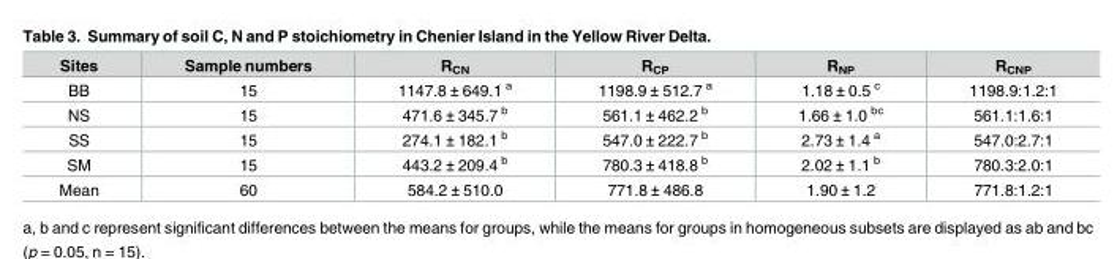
<table><thead><tr><td>Sites</td><td>Sample numbers</td><td>R<sub>CN</sub></td><td>R<sub>CP</sub></td><td>R<sub>NP</sub></td><td>R<sub>CNP</sub></td></tr></thead><tbody><tr><td>BB</td><td>15</td><td>1147.8 ± 649.1 <sup>a</sup></td><td>1198.9 ± 512.7 <sup>a</sup></td><td>1.18 ± 0.5 <sup>c</sup></td><td>1198.9:1.2:1</td></tr><tr><td>NS</td><td>15</td><td>471.6 ± 345.7 <sup>b</sup></td><td>561.1 ± 462.2 <sup>b</sup></td><td>1.66 ± 1.0 <sup>bc</sup></td><td>561.1:1.6:1</td></tr><tr><td>SS</td><td>15</td><td>274.1 ± 182.1 <sup>b</sup></td><td>547.0 ± 222.7 <sup>b</sup></td><td>2.73 ± 1.4 <sup>a</sup></td><td>547.0:2.7:1</td></tr><tr><td>SM</td><td>15</td><td>443.2 ± 209.4 <sup>b</sup></td><td>780.3 ± 418.8 <sup>b</sup></td><td>2.02 ± 1.1 <sup>b</sup></td><td>780.3:2.0:1</td></tr><tr><td>Mean</td><td>60</td><td>584.2 ± 510.0</td><td>771.8 ± 486.8</td><td>1.90 ± 1.2</td><td>771.8:1.2:1</td></tr></tbody></table>